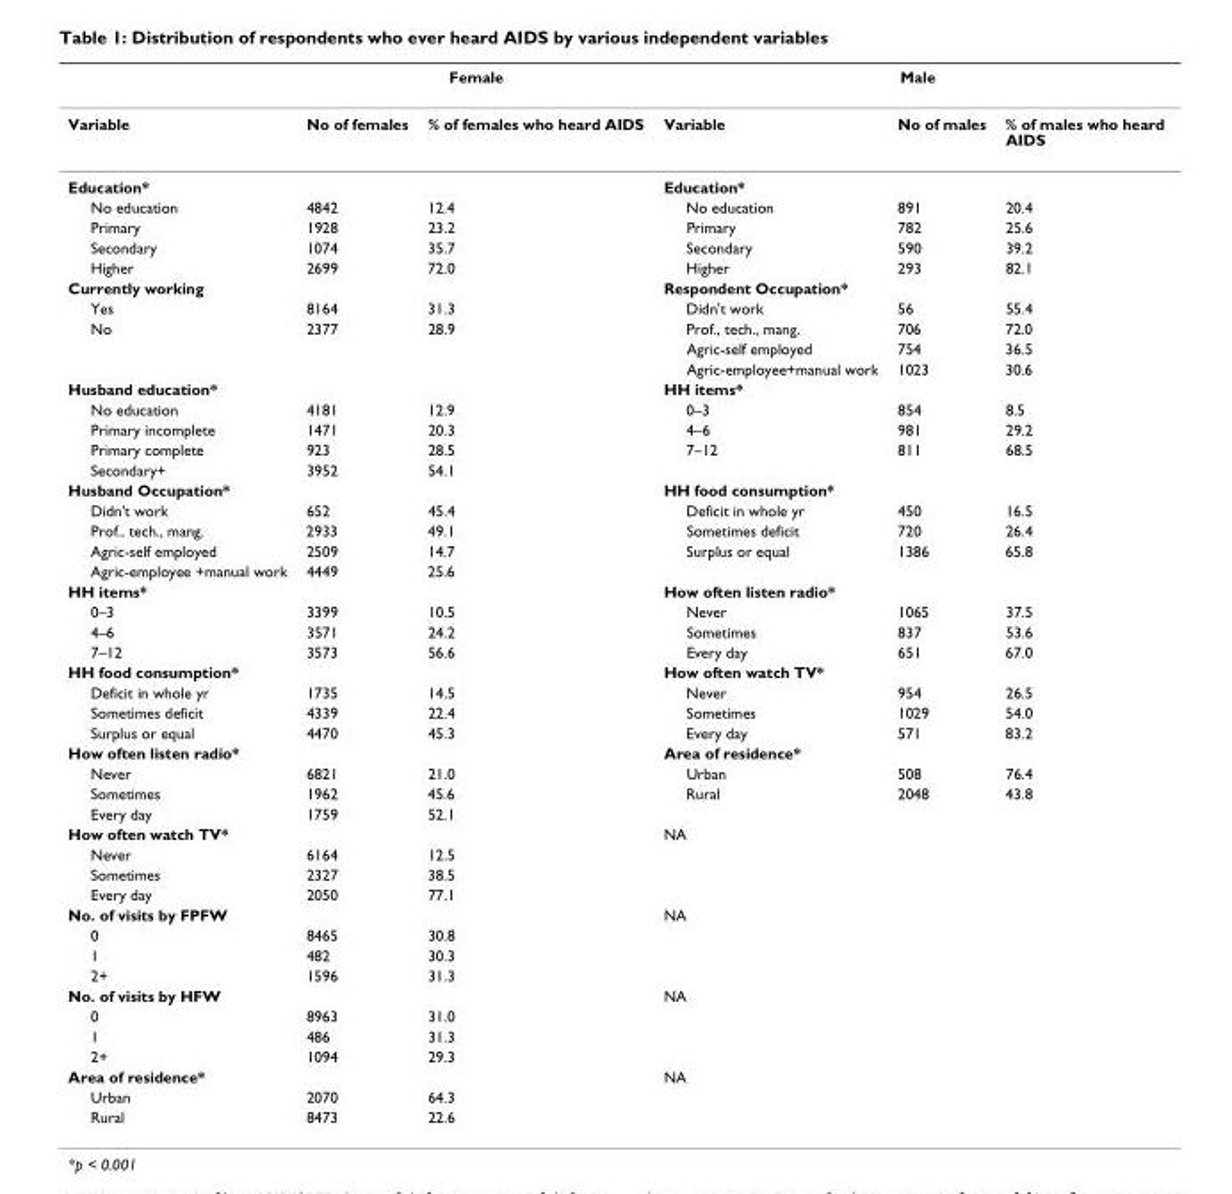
<table><thead><tr><td rowspan="2">Variable</td><td colspan="2">Female</td><td colspan="3">Male</td></tr><tr><td>No of females</td><td>% of females who heard AIDS</td><td>Variable</td><td>No of males</td><td>% of males who heard AIDS</td></tr></thead><tbody><tr><td>Education*</td><td></td><td></td><td>Education*</td><td></td><td></td></tr><tr><td>No education</td><td>4842</td><td>12.4</td><td>No education</td><td>891</td><td>20.4</td></tr><tr><td>Primary</td><td>1928</td><td>23.2</td><td>Primary</td><td>782</td><td>25.6</td></tr><tr><td>Secondary</td><td>1074</td><td>35.7</td><td>Secondary</td><td>590</td><td>39.2</td></tr><tr><td>Higher</td><td>2699</td><td>72.0</td><td>Higher</td><td>293</td><td>82.1</td></tr><tr><td>Currently working</td><td></td><td></td><td>Respondent Occupation*</td><td></td><td></td></tr><tr><td>Yes</td><td>8164</td><td>31.3</td><td>Didn&#x27;t work</td><td>56</td><td>55.4</td></tr><tr><td rowspan="3">No</td><td>2377</td><td>28.9</td><td>Prof., tech., mang.</td><td>706</td><td>72.0</td></tr><tr><td></td><td></td><td>Agric-self employed</td><td>754</td><td>36.5</td></tr><tr><td></td><td></td><td>Agric-employee+manual work</td><td>1023</td><td>30.6</td></tr><tr><td>Husband education*</td><td></td><td></td><td>HH items*</td><td></td><td></td></tr><tr><td>No education</td><td>4181</td><td>12.9</td><td>0–3</td><td>854</td><td>8.5</td></tr><tr><td>Primary incomplete</td><td>1471</td><td>20.3</td><td>4–6</td><td>981</td><td>29.2</td></tr><tr><td>Primary complete</td><td>923</td><td>28.5</td><td>7–12</td><td>811</td><td>68.5</td></tr><tr><td>Secondary+</td><td>3952</td><td>54.1</td><td></td><td></td><td></td></tr><tr><td>Husband Occupation*</td><td></td><td></td><td>HH food consumption*</td><td></td><td></td></tr><tr><td>Didn&#x27;t work</td><td>652</td><td>45.4</td><td>Deficit in whole yr</td><td>450</td><td>16.5</td></tr><tr><td>Prof., tech., mang.</td><td>2933</td><td>49.1</td><td>Sometimes deficit</td><td>720</td><td>26.4</td></tr><tr><td>Agric-self employed</td><td>2509</td><td>14.7</td><td>Surplus or equal</td><td>1386</td><td>65.8</td></tr><tr><td>Agric-employee +manual work</td><td>4449</td><td>25.6</td><td></td><td></td><td></td></tr><tr><td>HH items*</td><td></td><td></td><td>How often listen radio*</td><td></td><td></td></tr><tr><td>0–3</td><td>3399</td><td>10.5</td><td>Never</td><td>1065</td><td>37.5</td></tr><tr><td>4–6</td><td>3571</td><td>24.2</td><td>Sometimes</td><td>837</td><td>53.6</td></tr><tr><td>7–12</td><td>3573</td><td>56.6</td><td>Every day</td><td>651</td><td>67.0</td></tr><tr><td>HH food consumption*</td><td></td><td></td><td>How often watch TV*</td><td></td><td></td></tr><tr><td>Deficit in whole yr</td><td>1735</td><td>14.5</td><td>Never</td><td>954</td><td>26.5</td></tr><tr><td>Sometimes deficit</td><td>4339</td><td>22.4</td><td>Sometimes</td><td>1029</td><td>54.0</td></tr><tr><td>Surplus or equal</td><td>4470</td><td>45.3</td><td>Every day</td><td>571</td><td>83.2</td></tr><tr><td>How often listen radio*</td><td></td><td></td><td>Area of residence*</td><td></td><td></td></tr><tr><td>Never</td><td>6821</td><td>21.0</td><td>Urban</td><td>508</td><td>76.4</td></tr><tr><td>Sometimes</td><td>1962</td><td>45.6</td><td>Rural</td><td>2048</td><td>43.8</td></tr><tr><td>Every day</td><td>1759</td><td>52.1</td><td></td><td></td><td></td></tr><tr><td>How often watch TV*</td><td></td><td></td><td>NA</td><td></td><td></td></tr><tr><td>Never</td><td>6164</td><td>12.5</td><td></td><td></td><td></td></tr><tr><td>Sometimes</td><td>2327</td><td>38.5</td><td></td><td></td><td></td></tr><tr><td>Every day</td><td>2050</td><td>77.1</td><td></td><td></td><td></td></tr><tr><td>No. of visits by FPFW</td><td></td><td></td><td>NA</td><td></td><td></td></tr><tr><td>0</td><td>8465</td><td>30.8</td><td></td><td></td><td></td></tr><tr><td>1</td><td>482</td><td>30.3</td><td></td><td></td><td></td></tr><tr><td>2+</td><td>1596</td><td>31.3</td><td></td><td></td><td></td></tr><tr><td>No. of visits by HFW</td><td></td><td></td><td>NA</td><td></td><td></td></tr><tr><td>0</td><td>8963</td><td>31.0</td><td></td><td></td><td></td></tr><tr><td>1</td><td>486</td><td>31.3</td><td></td><td></td><td></td></tr><tr><td>2+</td><td>1094</td><td>29.3</td><td></td><td></td><td></td></tr><tr><td>Area of residence*</td><td></td><td></td><td>NA</td><td></td><td></td></tr><tr><td>Urban</td><td>2070</td><td>64.3</td><td></td><td></td><td></td></tr><tr><td>Rural</td><td>8473</td><td>22.6</td><td></td><td></td><td></td></tr></tbody></table>